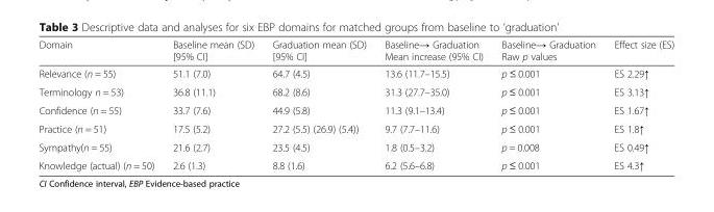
<table><thead><tr><td>Domain</td><td>Baseline mean (SD) [95% CI]</td><td>Graduation mean (SD) [95% CI]</td><td>Baseline→ Graduation Mean increase (95% CI)</td><td>Baseline→ Graduation Raw p values</td><td>Effect size (ES)</td></tr></thead><tbody><tr><td>Relevance (n = 55)</td><td>51.1 (7.0)</td><td>64.7 (4.5)</td><td>13.6 (11.7–15.5)</td><td>p ≤ 0.001</td><td>ES 2.29↑</td></tr><tr><td>Terminology n = 53)</td><td>36.8 (11.1)</td><td>68.2 (8.6)</td><td>31.3 (27.7–35.0)</td><td>p ≤ 0.001</td><td>ES 3.13↑</td></tr><tr><td>Confidence (n = 55)</td><td>33.7 (7.6)</td><td>44.9 (5.8)</td><td>11.3 (9.1–13.4)</td><td>p ≤ 0.001</td><td>ES 1.67↑</td></tr><tr><td>Practice (n = 51)</td><td>17.5 (5.2)</td><td>27.2 (5.5) (26.9) (5.4))</td><td>9.7 (7.7–11.6)</td><td>p ≤ 0.001</td><td>ES 1.8↑</td></tr><tr><td>Sympathy(n = 55)</td><td>21.6 (2.7)</td><td>23.5 (4.5)</td><td>1.8 (0.5–3.2)</td><td>p = 0.008</td><td>ES 0.49↑</td></tr><tr><td>Knowledge (actual) (n = 50)</td><td>2.6 (1.3)</td><td>8.8 (1.6)</td><td>6.2 (5.6–6.8)</td><td>p ≤ 0.001</td><td>ES 4.3↑</td></tr></tbody></table>